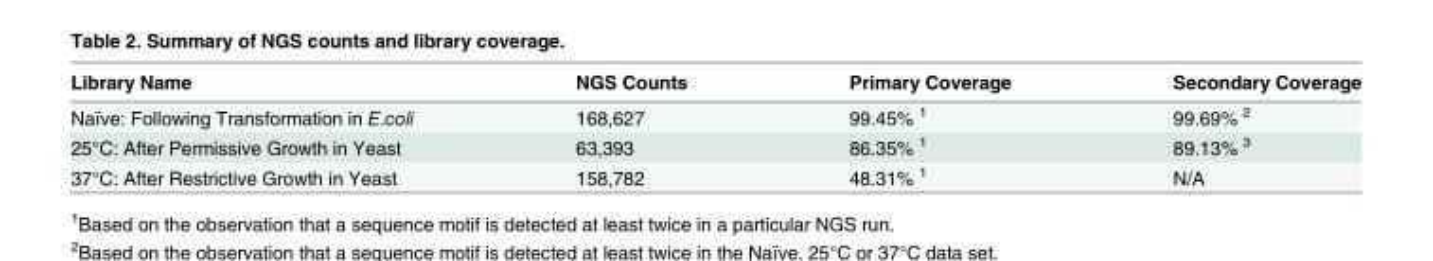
<table><thead><tr><td>Library Name</td><td>NGS Counts</td><td>Primary Coverage</td><td>Secondary Coverage</td></tr></thead><tbody><tr><td>Naïve: Following Transformation in E.coli</td><td>168,627</td><td>99.45% <sup>1</sup></td><td>99.69% <sup>2</sup></td></tr><tr><td>25°C: After Permissive Growth in Yeast</td><td>63,393</td><td>86.35% <sup>1</sup></td><td>89.13% <sup>3</sup></td></tr><tr><td>37°C: After Restrictive Growth in Yeast</td><td>158,782</td><td>48.31% <sup>1</sup></td><td>N/A</td></tr></tbody></table>